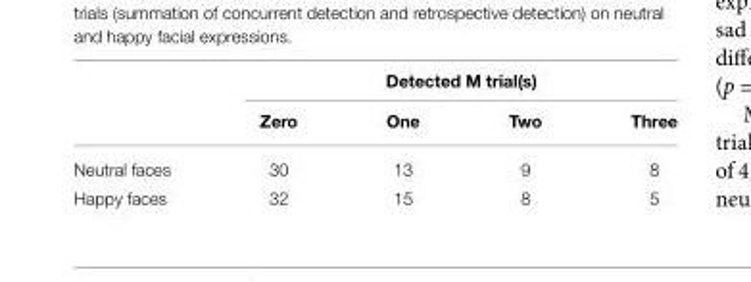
<table><thead><tr><td rowspan="2"></td><td colspan="4">Detected M trial(s)</td></tr><tr><td>Zero</td><td>One</td><td>Two</td><td>Three</td></tr></thead><tbody><tr><td>Neutral faces</td><td>30</td><td>13</td><td>9</td><td>8</td></tr><tr><td>Happy faces</td><td>32</td><td>15</td><td>8</td><td>5</td></tr></tbody></table>